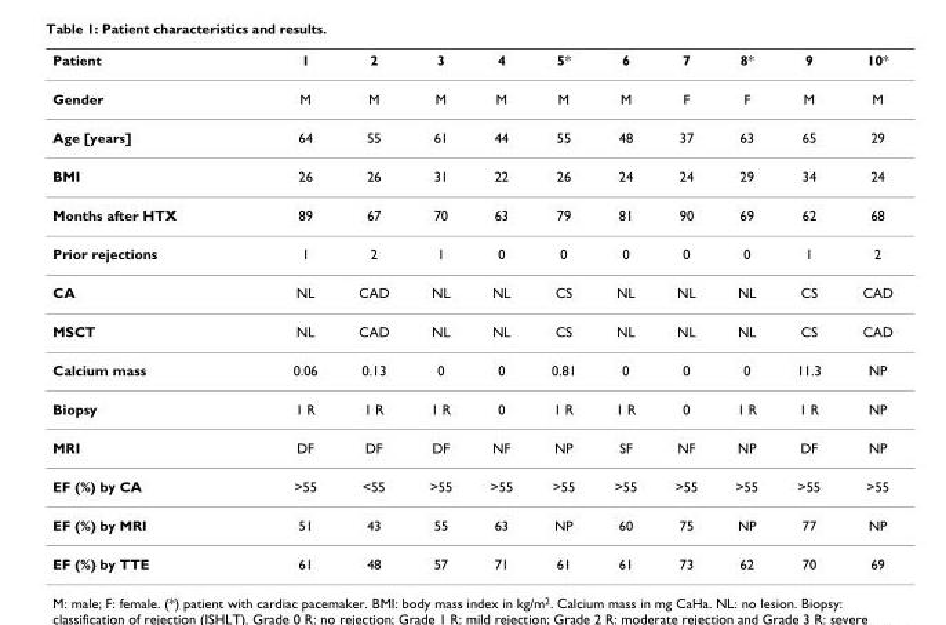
<table><thead><tr><td>Patient</td><td>1</td><td>2</td><td>3</td><td>4</td><td>5*</td><td>6</td><td>7</td><td>8*</td><td>9</td><td>10*</td></tr></thead><tbody><tr><td>Gender</td><td>M</td><td>M</td><td>M</td><td>M</td><td>M</td><td>M</td><td>F</td><td>F</td><td>M</td><td>M</td></tr><tr><td>Age [years]</td><td>64</td><td>55</td><td>61</td><td>44</td><td>55</td><td>48</td><td>37</td><td>63</td><td>65</td><td>29</td></tr><tr><td>BMI</td><td>26</td><td>26</td><td>31</td><td>22</td><td>26</td><td>24</td><td>24</td><td>29</td><td>34</td><td>24</td></tr><tr><td>Months after HTX</td><td>89</td><td>67</td><td>70</td><td>63</td><td>79</td><td>81</td><td>90</td><td>69</td><td>62</td><td>68</td></tr><tr><td>Prior rejections</td><td>1</td><td>2</td><td>1</td><td>0</td><td>0</td><td>0</td><td>0</td><td>0</td><td>1</td><td>2</td></tr><tr><td>CA</td><td>NL</td><td>CAD</td><td>NL</td><td>NL</td><td>CS</td><td>NL</td><td>NL</td><td>NL</td><td>CS</td><td>CAD</td></tr><tr><td>MSCT</td><td>NL</td><td>CAD</td><td>NL</td><td>NL</td><td>CS</td><td>NL</td><td>NL</td><td>NL</td><td>CS</td><td>CAD</td></tr><tr><td>Calcium mass</td><td>0.06</td><td>0.13</td><td>0</td><td>0</td><td>0.81</td><td>0</td><td>0</td><td>0</td><td>11.3</td><td>NP</td></tr><tr><td>Biopsy</td><td>1 R</td><td>1 R</td><td>1 R</td><td>0</td><td>1 R</td><td>1 R</td><td>0</td><td>1 R</td><td>1 R</td><td>NP</td></tr><tr><td>MRI</td><td>DF</td><td>DF</td><td>DF</td><td>NF</td><td>NP</td><td>SF</td><td>NF</td><td>NP</td><td>DF</td><td>NP</td></tr><tr><td>EF (%) by CA</td><td>&gt;55</td><td>&lt;55</td><td>&gt;55</td><td>&gt;55</td><td>&gt;55</td><td>&gt;55</td><td>&gt;55</td><td>&gt;55</td><td>&gt;55</td><td>&gt;55</td></tr><tr><td>EF (%) by MRI</td><td>51</td><td>43</td><td>55</td><td>63</td><td>NP</td><td>60</td><td>75</td><td>NP</td><td>77</td><td>NP</td></tr><tr><td>EF (%) by TTE</td><td>61</td><td>48</td><td>57</td><td>71</td><td>61</td><td>61</td><td>73</td><td>62</td><td>70</td><td>69</td></tr></tbody></table>